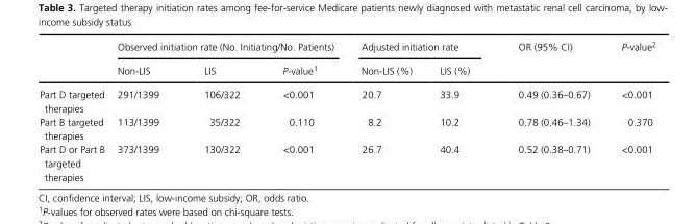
<table><thead><tr><td rowspan="2"></td><td colspan="3">Observed initiation rate (No. Initiating/No. Patients)</td><td colspan="2">Adjusted initiation rate</td><td rowspan="2">OR (95% CI)</td><td rowspan="2">P-value2</td></tr><tr><td>Non- LIS</td><td>LIS</td><td>P-value1</td><td>Non- LIS (%)</td><td>LIS (%)</td></tr></thead><tbody><tr><td>Part D targeted therapies</td><td>291/1399</td><td>106/322</td><td>&lt;0.001</td><td>20.7</td><td>33.9</td><td>0.49 (0.36–0.67)</td><td>&lt;0.001</td></tr><tr><td>Part B targeted therapies</td><td>113/1399</td><td>35/322</td><td>0.110</td><td>8.2</td><td>10.2</td><td>0.78 (0.46–1.34)</td><td>0.370</td></tr><tr><td>Part D or Part B targeted therapies</td><td>373/1399</td><td>130/322</td><td>&lt;0.001</td><td>26.7</td><td>40.4</td><td>0.52 (0.38–0.71)</td><td>&lt;0.001</td></tr></tbody></table>